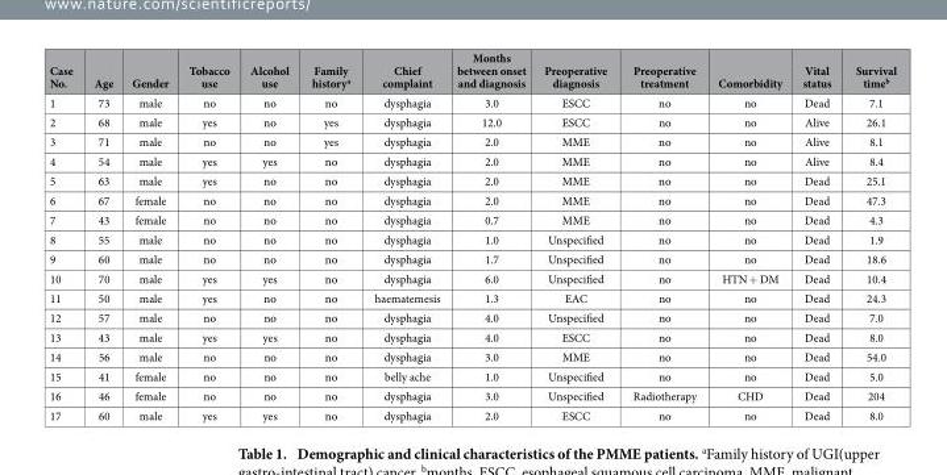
<table><thead><tr><td>Case No.</td><td>Age</td><td>Gender</td><td>Tobacco use</td><td>Alcohol use</td><td>Family history<sup>a</sup></td><td>Chief complaint</td><td>Months between onset and diagnosis</td><td>Preoperative diagnosis</td><td>Preoperative treatment</td><td>Comorbidity</td><td>Vital status</td><td>Survival time<sup>b</sup></td></tr></thead><tbody><tr><td>1</td><td>73</td><td>male</td><td>no</td><td>no</td><td>no</td><td>dysphagia</td><td>3.0</td><td>ESCC</td><td>no</td><td>no</td><td>Dead</td><td>7.1</td></tr><tr><td>2</td><td>68</td><td>male</td><td>yes</td><td>no</td><td>yes</td><td>dysphagia</td><td>12.0</td><td>ESCC</td><td>no</td><td>no</td><td>Alive</td><td>26.1</td></tr><tr><td>3</td><td>71</td><td>male</td><td>no</td><td>no</td><td>yes</td><td>dysphagia</td><td>2.0</td><td>MME</td><td>no</td><td>no</td><td>Alive</td><td>8.1</td></tr><tr><td>4</td><td>54</td><td>male</td><td>yes</td><td>yes</td><td>no</td><td>dysphagia</td><td>2.0</td><td>MME</td><td>no</td><td>no</td><td>Alive</td><td>8.4</td></tr><tr><td>5</td><td>63</td><td>male</td><td>yes</td><td>no</td><td>no</td><td>dysphagia</td><td>2.0</td><td>MME</td><td>no</td><td>no</td><td>Dead</td><td>25.1</td></tr><tr><td>6</td><td>67</td><td>female</td><td>no</td><td>no</td><td>no</td><td>dysphagia</td><td>2.0</td><td>MME</td><td>no</td><td>no</td><td>Dead</td><td>47.3</td></tr><tr><td>7</td><td>43</td><td>female</td><td>no</td><td>no</td><td>no</td><td>dysphagia</td><td>0.7</td><td>MME</td><td>no</td><td>no</td><td>Dead</td><td>4.3</td></tr><tr><td>8</td><td>55</td><td>male</td><td>no</td><td>no</td><td>no</td><td>dysphagia</td><td>1.0</td><td>Unspecified</td><td>no</td><td>no</td><td>Dead</td><td>1.9</td></tr><tr><td>9</td><td>60</td><td>male</td><td>no</td><td>no</td><td>no</td><td>dysphagia</td><td>1.7</td><td>Unspecified</td><td>no</td><td>no</td><td>Dead</td><td>18.6</td></tr><tr><td>10</td><td>70</td><td>male</td><td>yes</td><td>yes</td><td>no</td><td>dysphagia</td><td>6.0</td><td>Unspecified</td><td>no</td><td>HTN + DM</td><td>Dead</td><td>10.4</td></tr><tr><td>11</td><td>50</td><td>male</td><td>yes</td><td>no</td><td>no</td><td>haematemesis</td><td>1.3</td><td>EAC</td><td>no</td><td>no</td><td>Dead</td><td>24.3</td></tr><tr><td>12</td><td>57</td><td>male</td><td>no</td><td>no</td><td>no</td><td>dysphagia</td><td>4.0</td><td>Unspecified</td><td>no</td><td>no</td><td>Dead</td><td>7.0</td></tr><tr><td>13</td><td>43</td><td>male</td><td>yes</td><td>yes</td><td>no</td><td>dysphagia</td><td>4.0</td><td>ESCC</td><td>no</td><td>no</td><td>Dead</td><td>8.0</td></tr><tr><td>14</td><td>56</td><td>male</td><td>no</td><td>no</td><td>no</td><td>dysphagia</td><td>3.0</td><td>MME</td><td>no</td><td>no</td><td>Dead</td><td>54.0</td></tr><tr><td>15</td><td>41</td><td>female</td><td>no</td><td>no</td><td>no</td><td>belly ache</td><td>1.0</td><td>Unspecified</td><td>no</td><td>no</td><td>Dead</td><td>5.0</td></tr><tr><td>16</td><td>46</td><td>female</td><td>no</td><td>no</td><td>no</td><td>dysphagia</td><td>3.0</td><td>Unspecified</td><td>Radiotherapy</td><td>CHD</td><td>Dead</td><td>204</td></tr><tr><td>17</td><td>60</td><td>male</td><td>yes</td><td>yes</td><td>no</td><td>dysphagia</td><td>2.0</td><td>ESCC</td><td>no</td><td>no</td><td>Dead</td><td>8.0</td></tr></tbody></table>